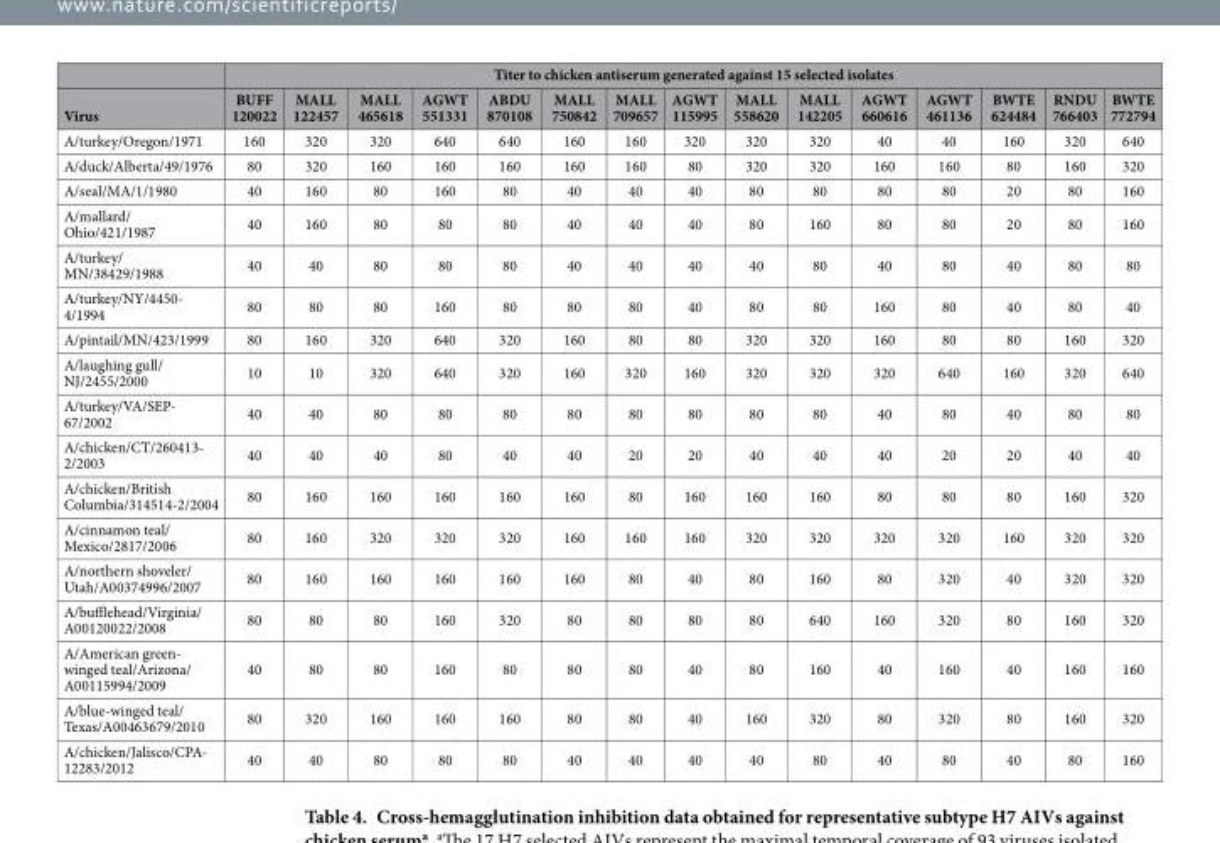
<table><thead><tr><td rowspan="2">Virus</td><td colspan="15">Titer to chicken antiserum generated against 15 selected isolates</td></tr><tr><td>BUFF 120022</td><td>MALL 122457</td><td>MALL 465618</td><td>AGWT 551331</td><td>ABDU 870108</td><td>MALL 750842</td><td>MALL 709657</td><td>AGWT 115995</td><td>MALL 558620</td><td>MALL 142205</td><td>AGWT 660616</td><td>AGWT 461136</td><td>BWTE 624484</td><td>RNDU 766403</td><td>BWTE 772794</td></tr></thead><tbody><tr><td>A/turkey/Oregon/1971</td><td>160</td><td>320</td><td>320</td><td>640</td><td>640</td><td>160</td><td>160</td><td>320</td><td>320</td><td>320</td><td>40</td><td>40</td><td>160</td><td>320</td><td>640</td></tr><tr><td>A/duck/Alberta/49/1976</td><td>80</td><td>320</td><td>160</td><td>160</td><td>160</td><td>160</td><td>160</td><td>80</td><td>320</td><td>320</td><td>160</td><td>160</td><td>80</td><td>160</td><td>320</td></tr><tr><td>A/seal/MA/1/1980</td><td>40</td><td>160</td><td>80</td><td>160</td><td>80</td><td>40</td><td>40</td><td>40</td><td>80</td><td>80</td><td>80</td><td>80</td><td>20</td><td>80</td><td>160</td></tr><tr><td>A/mallard/ Ohio/421/1987</td><td>40</td><td>160</td><td>80</td><td>80</td><td>80</td><td>40</td><td>40</td><td>40</td><td>80</td><td>160</td><td>80</td><td>80</td><td>20</td><td>80</td><td>160</td></tr><tr><td>A/turkey/ MN/38429/1988</td><td>40</td><td>40</td><td>80</td><td>80</td><td>80</td><td>40</td><td>40</td><td>40</td><td>40</td><td>80</td><td>40</td><td>80</td><td>40</td><td>80</td><td>80</td></tr><tr><td>A/turkey/NY/4450- 4/1994</td><td>80</td><td>80</td><td>80</td><td>160</td><td>80</td><td>80</td><td>80</td><td>40</td><td>80</td><td>80</td><td>160</td><td>80</td><td>40</td><td>80</td><td>40</td></tr><tr><td>A/pintail/MN/423/1999</td><td>80</td><td>160</td><td>320</td><td>640</td><td>320</td><td>160</td><td>80</td><td>80</td><td>320</td><td>320</td><td>160</td><td>80</td><td>80</td><td>160</td><td>320</td></tr><tr><td>A/laughing gull/ NJ/2455/2000</td><td>10</td><td>10</td><td>320</td><td>640</td><td>320</td><td>160</td><td>320</td><td>160</td><td>320</td><td>320</td><td>320</td><td>640</td><td>160</td><td>320</td><td>640</td></tr><tr><td>A/turkey/VA/SEP- 67/2002</td><td>40</td><td>40</td><td>80</td><td>80</td><td>80</td><td>80</td><td>80</td><td>80</td><td>80</td><td>80</td><td>40</td><td>80</td><td>40</td><td>80</td><td>80</td></tr><tr><td>A/chicken/CT/260413- 2/2003</td><td>40</td><td>40</td><td>40</td><td>80</td><td>40</td><td>40</td><td>20</td><td>20</td><td>40</td><td>40</td><td>40</td><td>20</td><td>20</td><td>40</td><td>40</td></tr><tr><td>A/chicken/British Columbia/314514-2/2004</td><td>80</td><td>160</td><td>160</td><td>160</td><td>160</td><td>160</td><td>80</td><td>160</td><td>160</td><td>160</td><td>80</td><td>80</td><td>80</td><td>160</td><td>320</td></tr><tr><td>A/cinnamon teal/ Mexico/2817/2006</td><td>80</td><td>160</td><td>320</td><td>320</td><td>320</td><td>160</td><td>160</td><td>160</td><td>320</td><td>320</td><td>320</td><td>320</td><td>160</td><td>320</td><td>320</td></tr><tr><td>A/northern shoveler/ Utah/A00374996/2007</td><td>80</td><td>160</td><td>160</td><td>160</td><td>160</td><td>160</td><td>80</td><td>40</td><td>80</td><td>160</td><td>80</td><td>320</td><td>40</td><td>320</td><td>320</td></tr><tr><td>A/bufflehead/Virginia/ A00120022/2008</td><td>80</td><td>80</td><td>80</td><td>160</td><td>320</td><td>80</td><td>80</td><td>80</td><td>80</td><td>640</td><td>160</td><td>320</td><td>80</td><td>160</td><td>320</td></tr><tr><td>A/American green- winged teal/Arizona/ A00115994/2009</td><td>40</td><td>80</td><td>80</td><td>160</td><td>80</td><td>80</td><td>80</td><td>40</td><td>80</td><td>160</td><td>40</td><td>160</td><td>40</td><td>160</td><td>160</td></tr><tr><td>A/blue-winged teal/ Texas/A00463679/2010</td><td>80</td><td>320</td><td>160</td><td>160</td><td>160</td><td>80</td><td>80</td><td>40</td><td>160</td><td>320</td><td>80</td><td>320</td><td>80</td><td>160</td><td>320</td></tr><tr><td>A/chicken/Jalisco/CPA- 12283/2012</td><td>40</td><td>40</td><td>80</td><td>80</td><td>80</td><td>40</td><td>40</td><td>40</td><td>40</td><td>80</td><td>40</td><td>80</td><td>40</td><td>80</td><td>160</td></tr></tbody></table>